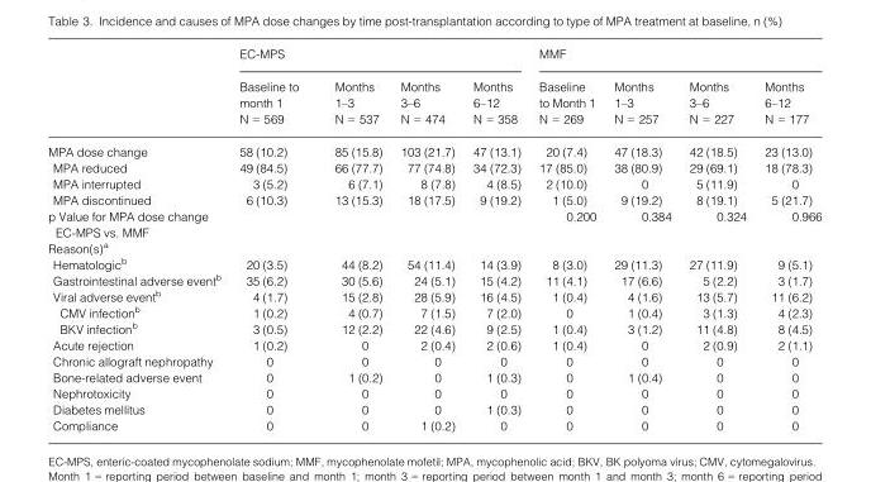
<table><thead><tr><td rowspan="2"></td><td colspan="4">EC-MPS</td><td colspan="4">MMF</td></tr><tr><td>Baseline to month 1 N = 569</td><td>Months 1–3 N = 537</td><td>Months 3–6 N = 474</td><td>Months 6–12 N = 358</td><td>Baseline to Month 1 N = 269</td><td>Months 1–3 N = 257</td><td>Months 3–6 N = 227</td><td>Months 6–12 N = 177</td></tr></thead><tbody><tr><td>MPA dose change</td><td>58 (10.2)</td><td>85 (15.8)</td><td>103 (21.7)</td><td>47 (13.1)</td><td>20 (7.4)</td><td>47 (18.3)</td><td>42 (18.5)</td><td>23 (13.0)</td></tr><tr><td>MPA reduced</td><td>49 (84.5)</td><td>66 (77.7)</td><td>77 (74.8)</td><td>34 (72.3)</td><td>17 (85.0)</td><td>38 (80.9)</td><td>29 (69.1)</td><td>18 (78.3)</td></tr><tr><td>MPA interrupted</td><td>3 (5.2)</td><td>6 (7.1)</td><td>8 (7.8)</td><td>4 (8.5)</td><td>2 (10.0)</td><td>0</td><td>5 (11.9)</td><td>0</td></tr><tr><td>MPA discontinued</td><td>6 (10.3)</td><td>13 (15.3)</td><td>18 (17.5)</td><td>9 (19.2)</td><td>1 (5.0)</td><td>9 (19.2)</td><td>8 (19.1)</td><td>5 (21.7)</td></tr><tr><td>p Value for MPA dose change EC-MPS vs. MMF</td><td></td><td></td><td></td><td></td><td>0.200</td><td>0.384</td><td>0.324</td><td>0.966</td></tr><tr><td colspan="9">Reason(s)<sup>a</sup></td></tr><tr><td>Hematologic<sup>b</sup></td><td>20 (3.5)</td><td>44 (8.2)</td><td>54 (11.4)</td><td>14 (3.9)</td><td>8 (3.0)</td><td>29 (11.3)</td><td>27 (11.9)</td><td>9 (5.1)</td></tr><tr><td>Gastrointestinal adverse event<sup>b</sup></td><td>35 (6.2)</td><td>30 (5.6)</td><td>24 (5.1)</td><td>15 (4.2)</td><td>11 (4.1)</td><td>17 (6.6)</td><td>5 (2.2)</td><td>3 (1.7)</td></tr><tr><td>Viral adverse event<sup>b</sup></td><td>4 (1.7)</td><td>15 (2.8)</td><td>28 (5.9)</td><td>16 (4.5)</td><td>1 (0.4)</td><td>4 (1.6)</td><td>13 (5.7)</td><td>11 (6.2)</td></tr><tr><td>CMV infection<sup>b</sup></td><td>1 (0.2)</td><td>4 (0.7)</td><td>7 (1.5)</td><td>7 (2.0)</td><td>0</td><td>1 (0.4)</td><td>3 (1.3)</td><td>4 (2.3)</td></tr><tr><td>BKV infection<sup>b</sup></td><td>3 (0.5)</td><td>12 (2.2)</td><td>22 (4.6)</td><td>9 (2.5)</td><td>1 (0.4)</td><td>3 (1.2)</td><td>11 (4.8)</td><td>8 (4.5)</td></tr><tr><td>Acute rejection</td><td>1 (0.2)</td><td>0</td><td>2 (0.4)</td><td>2 (0.6)</td><td>1 (0.4)</td><td>0</td><td>2 (0.9)</td><td>2 (1.1)</td></tr><tr><td>Chronic allograft nephropathy</td><td>0</td><td>0</td><td>0</td><td>0</td><td>0</td><td>0</td><td>0</td><td>0</td></tr><tr><td>Bone-related adverse event</td><td>0</td><td>1 (0.2)</td><td>0</td><td>1 (0.3)</td><td>0</td><td>1 (0.4)</td><td>0</td><td>0</td></tr><tr><td>Nephrotoxicity</td><td>0</td><td>0</td><td>0</td><td>0</td><td>0</td><td>0</td><td>0</td><td>0</td></tr><tr><td>Diabetes mellitus</td><td>0</td><td>0</td><td>0</td><td>1 (0.3)</td><td>0</td><td>0</td><td>0</td><td>0</td></tr><tr><td>Compliance</td><td>0</td><td>0</td><td>1 (0.2)</td><td>0</td><td>0</td><td>0</td><td>0</td><td>0</td></tr></tbody></table>